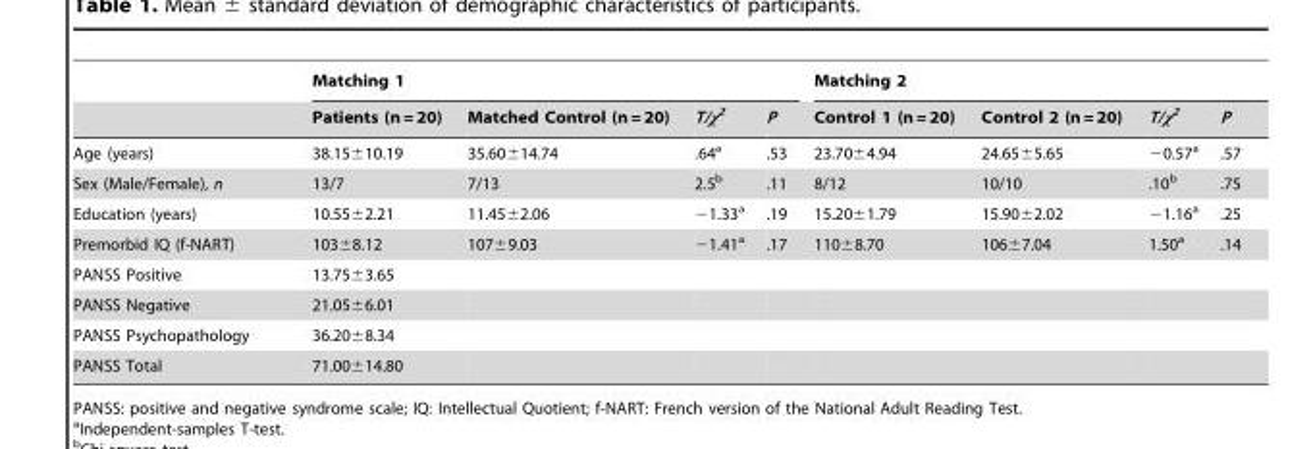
<table><thead><tr><td rowspan="2"></td><td colspan="4">Matching 1</td><td colspan="4">Matching 2</td></tr><tr><td>Patients (n = 20)</td><td>Matched Control (n = 20)</td><td>T/χ<sup>2</sup></td><td>P</td><td>Control 1 (n = 20)</td><td>Control 2 (n = 20)</td><td>T/χ<sup>2</sup></td><td>P</td></tr></thead><tbody><tr><td>Age (years)</td><td>38.15±10.19</td><td>35.60±14.74</td><td>.64<sup>a</sup></td><td>.53</td><td>23.70±4.94</td><td>24.65±5.65</td><td>−0.57<sup>a</sup></td><td>.57</td></tr><tr><td>Sex (Male/Female), n</td><td>13/7</td><td>7/13</td><td>2.5<sup>b</sup></td><td>.11</td><td>8/12</td><td>10/10</td><td>.10<sup>b</sup></td><td>.75</td></tr><tr><td>Education (years)</td><td>10.55±2.21</td><td>11.45±2.06</td><td>−1.33<sup>a</sup></td><td>.19</td><td>15.20±1.79</td><td>15.90±2.02</td><td>−1.16<sup>a</sup></td><td>.25</td></tr><tr><td>Premorbid IQ (f-NART)</td><td>103±8.12</td><td>107±9.03</td><td>−1.41<sup>a</sup></td><td>.17</td><td>110±8.70</td><td>106±7.04</td><td>1.50<sup>a</sup></td><td>.14</td></tr><tr><td>PANSS Positive</td><td>13.75±3.65</td><td></td><td></td><td></td><td></td><td></td><td></td><td></td></tr><tr><td>PANSS Negative</td><td>21.05±6.01</td><td></td><td></td><td></td><td></td><td></td><td></td><td></td></tr><tr><td>PANSS Psychopathology</td><td>36.20±8.34</td><td></td><td></td><td></td><td></td><td></td><td></td><td></td></tr><tr><td>PANSS Total</td><td>71.00±14.80</td><td></td><td></td><td></td><td></td><td></td><td></td><td></td></tr></tbody></table>